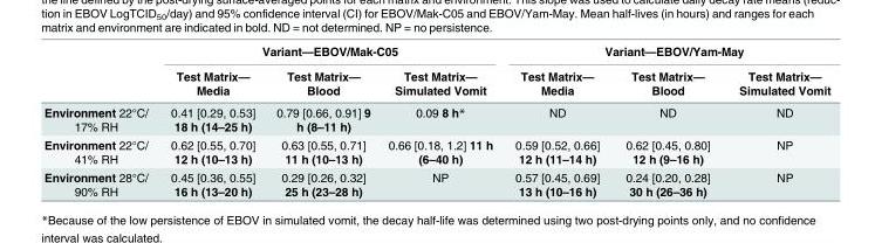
<table><thead><tr><td rowspan="2"></td><td colspan="3">Variant—EBOV/Mak-C05</td><td colspan="3">Variant—EBOV/Yam-May</td></tr><tr><td>Test Matrix— Media</td><td>Test Matrix— Blood</td><td>Test Matrix— Simulated Vomit</td><td>Test Matrix— Media</td><td>Test Matrix— Blood</td><td>Test Matrix— Simulated Vomit</td></tr></thead><tbody><tr><td>Environment 22°C/ 17% RH</td><td>0.41 [0.29, 0.53] 18 h (14–25 h)</td><td>0.79 [0.66, 0.91] 9 h (8–11 h)</td><td>0.09 8 h*</td><td>ND</td><td>ND</td><td>ND</td></tr><tr><td>Environment 22°C/ 41% RH</td><td>0.62 [0.55, 0.70] 12 h (10–13 h)</td><td>0.63 [0.55, 0.71] 11 h (10–13 h)</td><td>0.66 [0.18, 1.2] 11 h (6–40 h)</td><td>0.59 [0.52, 0.66] 12 h (11–14 h)</td><td>0.62 [0.45, 0.80] 12 h (9–16 h)</td><td>NP</td></tr><tr><td>Environment 28°C/ 90% RH</td><td>0.45 [0.36, 0.55] 16 h (13–20 h)</td><td>0.29 [0.26, 0.32] 25 h (23–28 h)</td><td>NP</td><td>0.57 [0.45, 0.69] 13 h (10–16 h)</td><td>0.24 [0.20, 0.28] 30 h (26–36 h)</td><td>NP</td></tr></tbody></table>